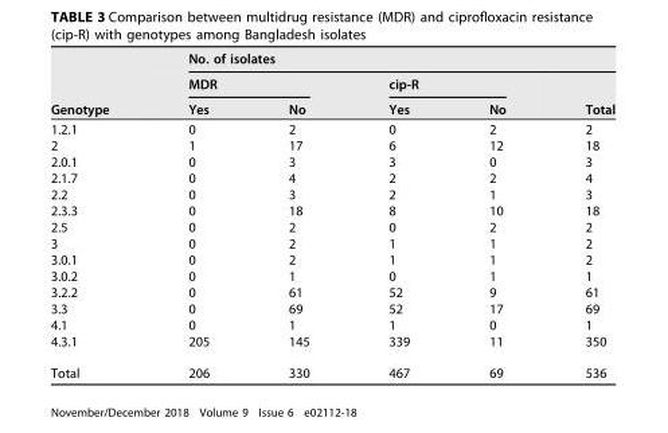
<table><thead><tr><td rowspan="3">Genotype</td><td colspan="5">No. of isolates</td></tr><tr><td colspan="2">MDR</td><td colspan="2">cip-R</td><td rowspan="2">Total</td></tr><tr><td>Yes</td><td>No</td><td>Yes</td><td>No</td></tr></thead><tbody><tr><td>1.2.1</td><td>0</td><td>2</td><td>0</td><td>2</td><td>2</td></tr><tr><td>2</td><td>1</td><td>17</td><td>6</td><td>12</td><td>18</td></tr><tr><td>2.0.1</td><td>0</td><td>3</td><td>3</td><td>0</td><td>3</td></tr><tr><td>2.1.7</td><td>0</td><td>4</td><td>2</td><td>2</td><td>4</td></tr><tr><td>2.2</td><td>0</td><td>3</td><td>2</td><td>1</td><td>3</td></tr><tr><td>2.3.3</td><td>0</td><td>18</td><td>8</td><td>10</td><td>18</td></tr><tr><td>2.5</td><td>0</td><td>2</td><td>0</td><td>2</td><td>2</td></tr><tr><td>3</td><td>0</td><td>2</td><td>1</td><td>1</td><td>2</td></tr><tr><td>3.0.1</td><td>0</td><td>2</td><td>1</td><td>1</td><td>2</td></tr><tr><td>3.0.2</td><td>0</td><td>1</td><td>0</td><td>1</td><td>1</td></tr><tr><td>3.2.2</td><td>0</td><td>61</td><td>52</td><td>9</td><td>61</td></tr><tr><td>3.3</td><td>0</td><td>69</td><td>52</td><td>17</td><td>69</td></tr><tr><td>4.1</td><td>0</td><td>1</td><td>1</td><td>0</td><td>1</td></tr><tr><td>4.3.1</td><td>205</td><td>145</td><td>339</td><td>11</td><td>350</td></tr><tr><td>Total</td><td>206</td><td>330</td><td>467</td><td>69</td><td>536</td></tr></tbody></table>